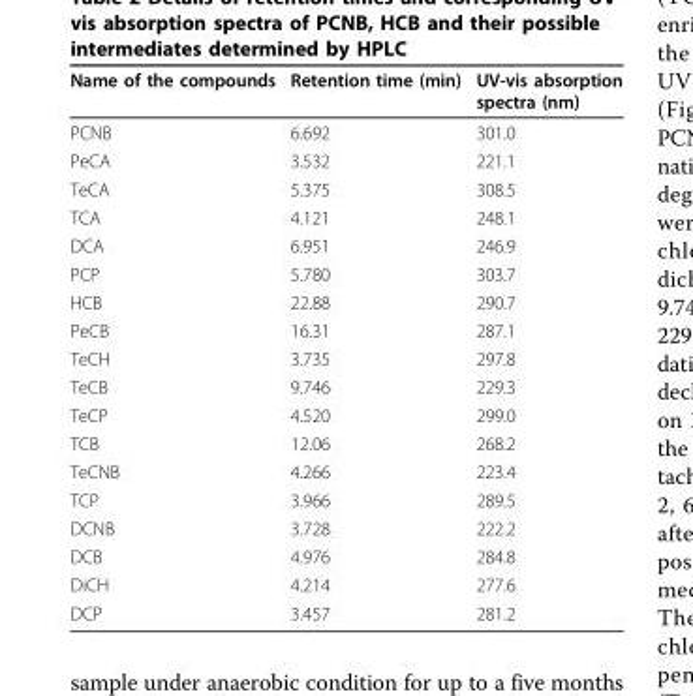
<table><thead><tr><td>Name of the compounds</td><td>Retention time (min)</td><td>UV-vis absorption spectra (nm)</td></tr></thead><tbody><tr><td>PCNB</td><td>6.692</td><td>301.0</td></tr><tr><td>PeCA</td><td>3.532</td><td>221.1</td></tr><tr><td>TeCA</td><td>5.375</td><td>308.5</td></tr><tr><td>TCA</td><td>4.121</td><td>248.1</td></tr><tr><td>DCA</td><td>6.951</td><td>246.9</td></tr><tr><td>PCP</td><td>5.780</td><td>303.7</td></tr><tr><td>HCB</td><td>22.88</td><td>290.7</td></tr><tr><td>PeCB</td><td>16.31</td><td>287.1</td></tr><tr><td>TeCH</td><td>3.735</td><td>297.8</td></tr><tr><td>TeCB</td><td>9.746</td><td>229.3</td></tr><tr><td>TeCP</td><td>4.520</td><td>299.0</td></tr><tr><td>TCB</td><td>12.06</td><td>268.2</td></tr><tr><td>TeCNB</td><td>4.266</td><td>223.4</td></tr><tr><td>TCP</td><td>3.966</td><td>289.5</td></tr><tr><td>DCNB</td><td>3.728</td><td>222.2</td></tr><tr><td>DCB</td><td>4.976</td><td>284.8</td></tr><tr><td>DiCH</td><td>4.214</td><td>277.6</td></tr><tr><td>DCP</td><td>3.457</td><td>281.2</td></tr></tbody></table>